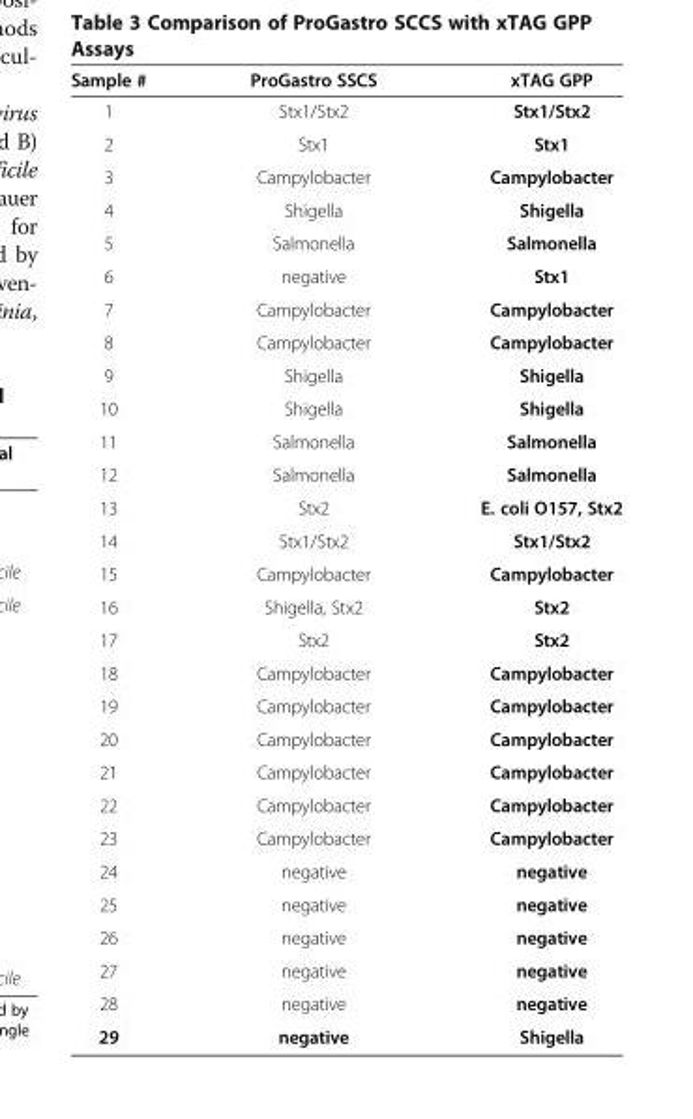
<table><thead><tr><td>Sample #</td><td>ProGastro SSCS</td><td>xTAG GPP</td></tr></thead><tbody><tr><td>1</td><td>Stx1/Stx2</td><td>Stx1/Stx2</td></tr><tr><td>2</td><td>Stx1</td><td>Stx1</td></tr><tr><td>3</td><td>Campylobacter</td><td>Campylobacter</td></tr><tr><td>4</td><td>Shigella</td><td>Shigella</td></tr><tr><td>5</td><td>Salmonella</td><td>Salmonella</td></tr><tr><td>6</td><td>negative</td><td>Stx1</td></tr><tr><td>7</td><td>Campylobacter</td><td>Campylobacter</td></tr><tr><td>8</td><td>Campylobacter</td><td>Campylobacter</td></tr><tr><td>9</td><td>Shigella</td><td>Shigella</td></tr><tr><td>10</td><td>Shigella</td><td>Shigella</td></tr><tr><td>11</td><td>Salmonella</td><td>Salmonella</td></tr><tr><td>12</td><td>Salmonella</td><td>Salmonella</td></tr><tr><td>13</td><td>Stx2</td><td>E. coli O157, Stx2</td></tr><tr><td>14</td><td>Stx1/Stx2</td><td>Stx1/Stx2</td></tr><tr><td>15</td><td>Campylobacter</td><td>Campylobacter</td></tr><tr><td>16</td><td>Shigella, Stx2</td><td>Stx2</td></tr><tr><td>17</td><td>Stx2</td><td>Stx2</td></tr><tr><td>18</td><td>Campylobacter</td><td>Campylobacter</td></tr><tr><td>19</td><td>Campylobacter</td><td>Campylobacter</td></tr><tr><td>20</td><td>Campylobacter</td><td>Campylobacter</td></tr><tr><td>21</td><td>Campylobacter</td><td>Campylobacter</td></tr><tr><td>22</td><td>Campylobacter</td><td>Campylobacter</td></tr><tr><td>23</td><td>Campylobacter</td><td>Campylobacter</td></tr><tr><td>24</td><td>negative</td><td>negative</td></tr><tr><td>25</td><td>negative</td><td>negative</td></tr><tr><td>26</td><td>negative</td><td>negative</td></tr><tr><td>27</td><td>negative</td><td>negative</td></tr><tr><td>28</td><td>negative</td><td>negative</td></tr><tr><td>29</td><td>negative</td><td>Shigella</td></tr></tbody></table>